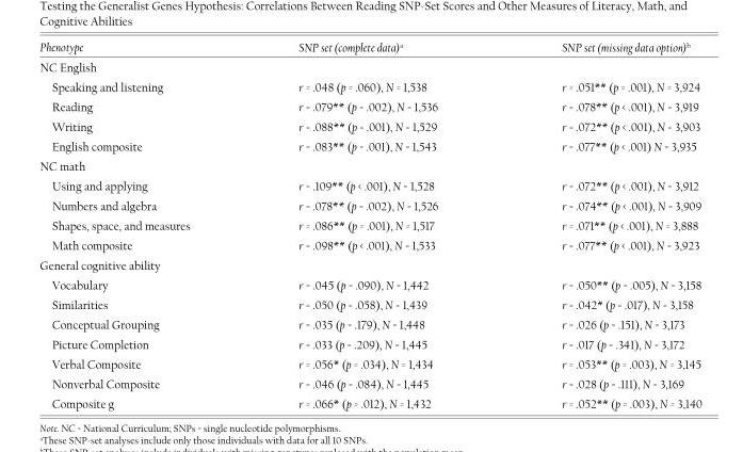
<table><thead><tr><td>Phenotype</td><td>SNP set (complete data) <sup>a</sup></td><td>SNP set (missing data option) <sup>b</sup></td></tr></thead><tbody><tr><td colspan="3">NC English</td></tr><tr><td>Speaking and listening</td><td>r = .048 ( p = .060), N = 1,538</td><td>r = .051 ** ( p = .001), N = 3,924</td></tr><tr><td>Reading</td><td>r = .079 ** ( p = .002), N = 1,536</td><td>r = .078 ** ( p &lt; .001), N = 3,919</td></tr><tr><td>Writing</td><td>r = .088 ** ( p = .001), N = 1,529</td><td>r = .072 ** ( p &lt; .001), N = 3,903</td></tr><tr><td>English composite</td><td>r = .083 ** ( p = .001), N = 1,543</td><td>r = .077 ** ( p &lt; .001) N = 3,935</td></tr><tr><td colspan="3">NC math</td></tr><tr><td>Using and applying</td><td>r = .109 ** ( p &lt; .001), N = 1,528</td><td>r = .072 ** ( p &lt; .001), N = 3,912</td></tr><tr><td>Numbers and algebra</td><td>r = .078 ** ( p = .002), N = 1,526</td><td>r = .074 ** ( p &lt; .001), N = 3,909</td></tr><tr><td>Shapes, space, and measures</td><td>r = .086 ** ( p = .001), N = 1,517</td><td>r = .071 ** ( p &lt; .001), N = 3,888</td></tr><tr><td>Math composite</td><td>r = .098 ** ( p &lt; .001), N = 1,533</td><td>r = .077 ** ( p &lt; .001), N = 3,923</td></tr><tr><td colspan="3">General cognitive ability</td></tr><tr><td>Vocabulary</td><td>r = .045 ( p = .090), N = 1,442</td><td>r = .050 ** ( p = .005), N = 3,158</td></tr><tr><td>Similarities</td><td>r = .050 ( p = .058), N = 1,439</td><td>r = .042 * ( p = .017), N = 3,158</td></tr><tr><td>Conceptual Grouping</td><td>r = .035 ( p = .179), N = 1,448</td><td>r = .026 ( p = .151), N = 3,173</td></tr><tr><td>Picture Completion</td><td>r = .033 ( p = .209), N = 1,445</td><td>r = .017 ( p = .341), N = 3,172</td></tr><tr><td>Verbal Composite</td><td>r = .056 * ( p = .034), N = 1,434</td><td>r = .053 ** ( p = .003), N = 3,145</td></tr><tr><td>Nonverbal Composite</td><td>r = .046 ( p = .084), N = 1,445</td><td>r = .028 ( p = .111), N = 3,169</td></tr><tr><td>Composite g</td><td>r = .066 * ( p = .012), N = 1,432</td><td>r = .052 ** ( p = .003), N = 3,140</td></tr></tbody></table>